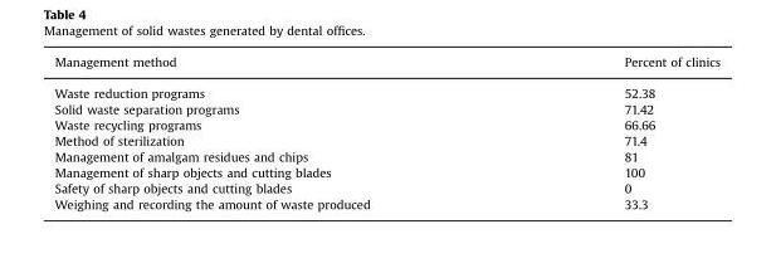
<table><thead><tr><td>Management method</td><td>Percent of clinics</td></tr></thead><tbody><tr><td>Waste reduction programs</td><td>52.38</td></tr><tr><td>Solid waste separation programs</td><td>71.42</td></tr><tr><td>Waste recycling programs</td><td>66.66</td></tr><tr><td>Method of sterilization</td><td>71.4</td></tr><tr><td>Management of amalgam residues and chips</td><td>81</td></tr><tr><td>Management of sharp objects and cutting blades</td><td>100</td></tr><tr><td>Safety of sharp objects and cutting blades</td><td>0</td></tr><tr><td>Weighing and recording the amount of waste produced</td><td>33.3</td></tr></tbody></table>